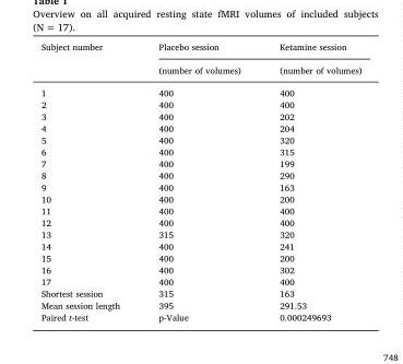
<table><thead><tr><td rowspan="2">Subject number</td><td rowspan="2">Placebo session (number of volumes)</td><td rowspan="2">Ketamine session (number of volumes)</td></tr><tr></tr></thead><tbody><tr><td>1</td><td>400</td><td>400</td></tr><tr><td>2</td><td>400</td><td>400</td></tr><tr><td>3</td><td>400</td><td>202</td></tr><tr><td>4</td><td>400</td><td>204</td></tr><tr><td>5</td><td>400</td><td>320</td></tr><tr><td>6</td><td>400</td><td>315</td></tr><tr><td>7</td><td>400</td><td>199</td></tr><tr><td>8</td><td>400</td><td>290</td></tr><tr><td>9</td><td>400</td><td>163</td></tr><tr><td>10</td><td>400</td><td>200</td></tr><tr><td>11</td><td>400</td><td>400</td></tr><tr><td>12</td><td>400</td><td>400</td></tr><tr><td>13</td><td>315</td><td>320</td></tr><tr><td>14</td><td>400</td><td>241</td></tr><tr><td>15</td><td>400</td><td>200</td></tr><tr><td>16</td><td>400</td><td>302</td></tr><tr><td>17</td><td>400</td><td>400</td></tr><tr><td>Shortest session</td><td>315</td><td>163</td></tr><tr><td>Mean session length</td><td>395</td><td>291.53</td></tr><tr><td>Paired t-test</td><td>p-Value</td><td>0.000249693</td></tr></tbody></table>